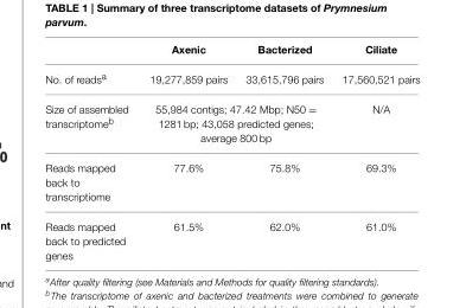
<table><thead><tr><td></td><td>Axenic</td><td>Bacterized</td><td>Ciliate</td></tr></thead><tbody><tr><td>No. of reads<sup>a</sup></td><td>19,277,859 pairs</td><td>33,615,796 pairs</td><td>17,560,521 pairs</td></tr><tr><td>Size of assembled transcriptome<sup>b</sup></td><td colspan="2">55,984 contigs; 47.42 Mbp; N50 = 1281 bp; 43,058 predicted genes; average 800 bp</td><td>N/A</td></tr><tr><td>Reads mapped back to transcriptiome</td><td>77.6%</td><td>75.8%</td><td>69.3%</td></tr><tr><td>Reads mapped back to predicted genes</td><td>61.5%</td><td>62.0%</td><td>61.0%</td></tr></tbody></table>